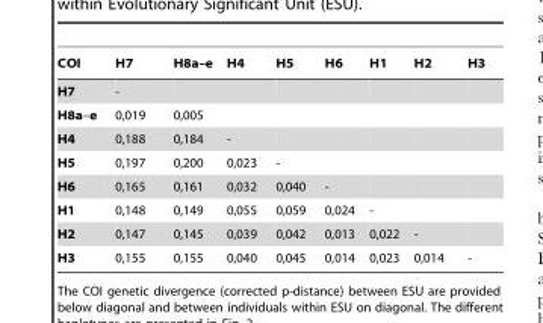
<table><thead><tr><td>COI</td><td>H7</td><td>H8a–e</td><td>H4</td><td>H5</td><td>H6</td><td>H1</td><td>H2</td><td>H3</td></tr></thead><tbody><tr><td>H7</td><td>-</td><td></td><td></td><td></td><td></td><td></td><td></td><td></td></tr><tr><td>H8a–e</td><td>0,019</td><td>0,005</td><td></td><td></td><td></td><td></td><td></td><td></td></tr><tr><td>H4</td><td>0,188</td><td>0,184</td><td>-</td><td></td><td></td><td></td><td></td><td></td></tr><tr><td>H5</td><td>0,197</td><td>0,200</td><td>0,023</td><td>-</td><td></td><td></td><td></td><td></td></tr><tr><td>H6</td><td>0,165</td><td>0,161</td><td>0,032</td><td>0,040</td><td>-</td><td></td><td></td><td></td></tr><tr><td>H1</td><td>0,148</td><td>0,149</td><td>0,055</td><td>0,059</td><td>0,024</td><td>-</td><td></td><td></td></tr><tr><td>H2</td><td>0,147</td><td>0,145</td><td>0,039</td><td>0,042</td><td>0,013</td><td>0,022</td><td>-</td><td></td></tr><tr><td>H3</td><td>0,155</td><td>0,155</td><td>0,040</td><td>0,045</td><td>0,014</td><td>0,023</td><td>0,014</td><td>-</td></tr></tbody></table>